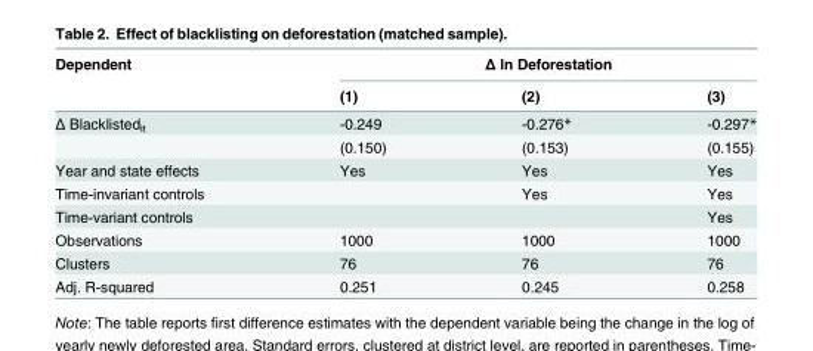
<table><thead><tr><td rowspan="2">Dependent</td><td colspan="3">Δ ln Deforestation</td></tr><tr><td>(1)</td><td>(2)</td><td>(3)</td></tr></thead><tbody><tr><td rowspan="2">Δ Blacklisted<sub>it</sub></td><td>-0.249</td><td>-0.276*</td><td>-0.297*</td></tr><tr><td>(0.150)</td><td>(0.153)</td><td>(0.155)</td></tr><tr><td>Year and state effects</td><td>Yes</td><td>Yes</td><td>Yes</td></tr><tr><td>Time-invariant controls</td><td></td><td>Yes</td><td>Yes</td></tr><tr><td>Time-variant controls</td><td></td><td></td><td>Yes</td></tr><tr><td>Observations</td><td>1000</td><td>1000</td><td>1000</td></tr><tr><td>Clusters</td><td>76</td><td>76</td><td>76</td></tr><tr><td>Adj. R-squared</td><td>0.251</td><td>0.245</td><td>0.258</td></tr></tbody></table>